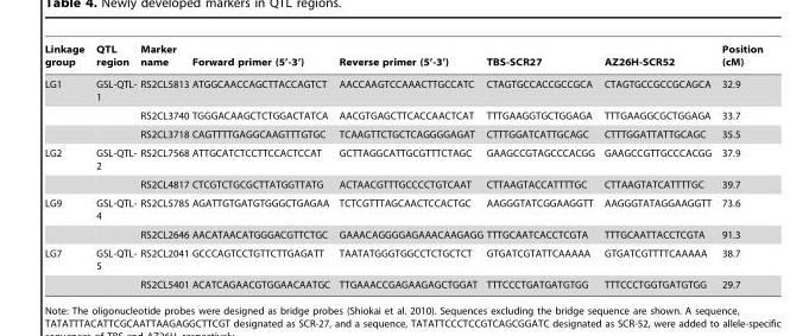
<table><thead><tr><td>Linkage group</td><td>QTL region</td><td>Marker name</td><td>Forward primer (5’-3’)</td><td>Reverse primer (5’-3’)</td><td>TBS-SCR27</td><td>AZ26H-SCR52</td><td>Position (cM)</td></tr></thead><tbody><tr><td rowspan="3">LG1</td><td>GSL-QTL- 1</td><td>RS2CL5813</td><td>ATGGCAACCAGCTTACCAGTCT</td><td>AACCAAGTCCAAACTTGCCATC</td><td>CTAGTGCCACCGCCGCA</td><td>CTAGTGCCGCCGCAGCA</td><td>32.9</td></tr><tr><td></td><td>RS2CL3740</td><td>TGGGACAAGCTCTGGACTATCA</td><td>AACGTGAGCTTCACCAACTCAT</td><td>TTTGAAGGTGCTGGAGA</td><td>TTTGAAGGCGCTGGAGA</td><td>33.7</td></tr><tr><td></td><td>RS2CL3718</td><td>CAGTTTTGAGGCAAGTTTGTGC</td><td>TCAAGTTCTGCTCAGGGGAGAT</td><td>CTTTGGATCATTGCAGC</td><td>CTTTGGATTATTGCAGC</td><td>35.5</td></tr><tr><td rowspan="2">LG2</td><td>GSL-QTL- 2</td><td>RS2CL7568</td><td>ATTGCATCTCCTTCCACTCCAT</td><td>GCTTAGGCATTGCGTTTCTAGC</td><td>GAAGCCGTAGCCCACGG</td><td>GAAGCCGTTGCCCACGG</td><td>37.9</td></tr><tr><td></td><td>RS2CL4817</td><td>CTCGTCTGCGCTTATGGTTATG</td><td>ACTAACGTTTGCCCCTGTCAAT</td><td>CTTAAGTACCATTTTGC</td><td>CTTAAGTATCATTTTGC</td><td>39.7</td></tr><tr><td rowspan="2">LG9</td><td>GSL-QTL- 4</td><td>RS2CL5785</td><td>AGATTGTGATGTGGGCTGAGAA</td><td>TCTCGTTTAGCAACTCCACTGC</td><td>AAGGGTATCGGAAGGTT</td><td>AAGGGTATAGGAAGGTT</td><td>73.6</td></tr><tr><td></td><td>RS2CL2646</td><td>AACATAACATGGGACGTTCTGC</td><td>GAAACAGGGGAGAAACAAGAGG</td><td>TTTGCAATCACCTCGTA</td><td>TTTGCAATTACCTCGTA</td><td>91.3</td></tr><tr><td rowspan="2">LG7</td><td>GSL-QTL- 5</td><td>RS2CL2041</td><td>GCCCAGTCCTGTTCTTGAGATT</td><td>TAATATGGGTGGCCTCTGCTCT</td><td>GTGATCGTATTCAAAAA</td><td>GTGATCGTTTTCAAAAA</td><td>38.7</td></tr><tr><td></td><td>RS2CL5401</td><td>ACATCAGAACGTGGAACAATGC</td><td>TTGAAACCGAGAAGAGCTGGAT</td><td>TTTCCCTGATGATGTGG</td><td>TTTCCCTGGTGATGTGG</td><td>29.7</td></tr></tbody></table>